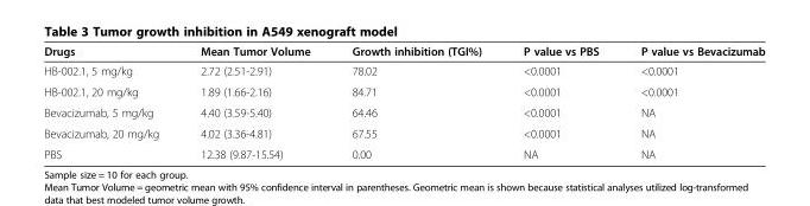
<table><thead><tr><td>Drugs</td><td>Mean Tumor Volume</td><td>Growth inhibition (TGI%)</td><td>P value vs PBS</td><td>P value vs Bevacizumab</td></tr></thead><tbody><tr><td>HB-002.1, 5 mg/kg</td><td>2.72 (2.51-2.91)</td><td>78.02</td><td>&lt;0.0001</td><td>&lt;0.0001</td></tr><tr><td>HB-002.1, 20 mg/kg</td><td>1.89 (1.66-2.16)</td><td>84.71</td><td>&lt;0.0001</td><td>&lt;0.0001</td></tr><tr><td>Bevacizumab, 5 mg/kg</td><td>4.40 (3.59-5.40)</td><td>64.46</td><td>&lt;0.0001</td><td>NA</td></tr><tr><td>Bevacizumab, 20 mg/kg</td><td>4.02 (3.36-4.81)</td><td>67.55</td><td>&lt;0.0001</td><td>NA</td></tr><tr><td>PBS</td><td>12.38 (9.87-15.54)</td><td>0.00</td><td>NA</td><td>NA</td></tr></tbody></table>